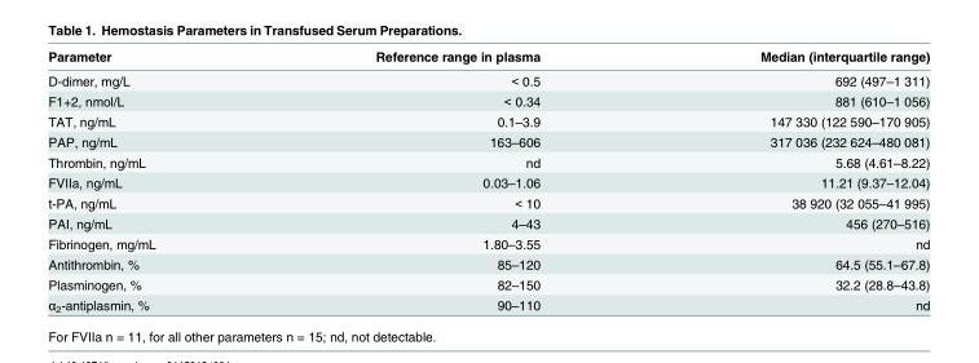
<table><thead><tr><td>Parameter</td><td>Reference range in plasma</td><td>Median (interquartile range)</td></tr></thead><tbody><tr><td>D-dimer, mg/L</td><td>&lt; 0.5</td><td>692 (497–1 311)</td></tr><tr><td>F1+2, nmol/L</td><td>&lt; 0.34</td><td>881 (610–1 056)</td></tr><tr><td>TAT, ng/mL</td><td>0.1–3.9</td><td>147 330 (122 590–170 905)</td></tr><tr><td>PAP, ng/mL</td><td>163–606</td><td>317 036 (232 624–480 081)</td></tr><tr><td>Thrombin, ng/mL</td><td>nd</td><td>5.68 (4.61–8.22)</td></tr><tr><td>FVIIa, ng/mL</td><td>0.03–1.06</td><td>11.21 (9.37–12.04)</td></tr><tr><td>t-PA, ng/mL</td><td>&lt; 10</td><td>38 920 (32 055–41 995)</td></tr><tr><td>PAI, ng/mL</td><td>4–43</td><td>456 (270–516)</td></tr><tr><td>Fibrinogen, mg/mL</td><td>1.80–3.55</td><td>nd</td></tr><tr><td>Antithrombin, %</td><td>85–120</td><td>64.5 (55.1–67.8)</td></tr><tr><td>Plasminogen, %</td><td>82–150</td><td>32.2 (28.8–43.8)</td></tr><tr><td>α<sub>2</sub>-antiplasmin, %</td><td>90–110</td><td>nd</td></tr></tbody></table>